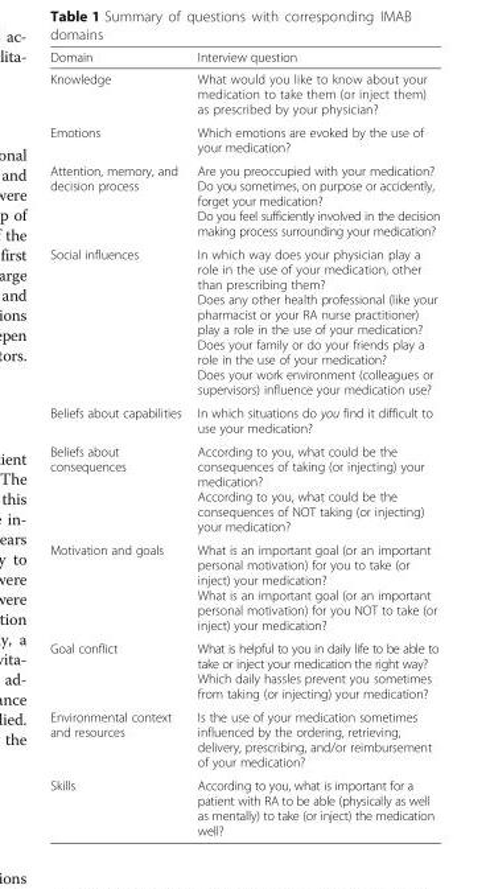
<table><thead><tr><td>Domain</td><td>Interview question</td></tr></thead><tbody><tr><td>Knowledge</td><td>What would you like to know about your medication to take them (or inject them) as prescribed by your physician?</td></tr><tr><td>Emotions</td><td>Which emotions are evoked by the use of your medication?</td></tr><tr><td>Attention, memory, and decision process</td><td>Are you preoccupied with your medication? Do you sometimes, on purpose or accidently, forget your medication? Do you feel sufficiently involved in the decision making process surrounding your medication?</td></tr><tr><td>Social influences</td><td>In which way does your physician play a role in the use of your medication, other than prescribing them? Does any other health professional (like your pharmacist or your RA nurse practitioner) play a role in the use of your medication? Does your family or do your friends play a role in the use of your medication? Does your work environment (colleagues or supervisors) influence your medication use?</td></tr><tr><td>Beliefs about capabilities</td><td>In which situations do you find it difficult to use your medication?</td></tr><tr><td>Beliefs about consequences</td><td>According to you, what could be the consequences of taking (or injecting) your medication? According to you, what could be the consequences of NOT taking (or injecting) your medication?</td></tr><tr><td>Motivation and goals</td><td>What is an important goal (or an important personal motivation) for you to take (or inject) your medication? What is an important goal (or an important personal motivation) for you NOT to take (or inject) your medication?</td></tr><tr><td>Goal conflict</td><td>What is helpful to you in daily life to be able to take or inject your medication the right way? Which daily hassles prevent you sometimes from taking (or injecting) your medication?</td></tr><tr><td>Environmental context and resources</td><td>Is the use of your medication sometimes influenced by the ordering, retrieving, delivery, prescribing, and/or reimbursement of your medication?</td></tr><tr><td>Skills</td><td>According to you, what is important for a patient with RA to be able (physically as well as mentally) to take (or inject) the medication well?</td></tr></tbody></table>